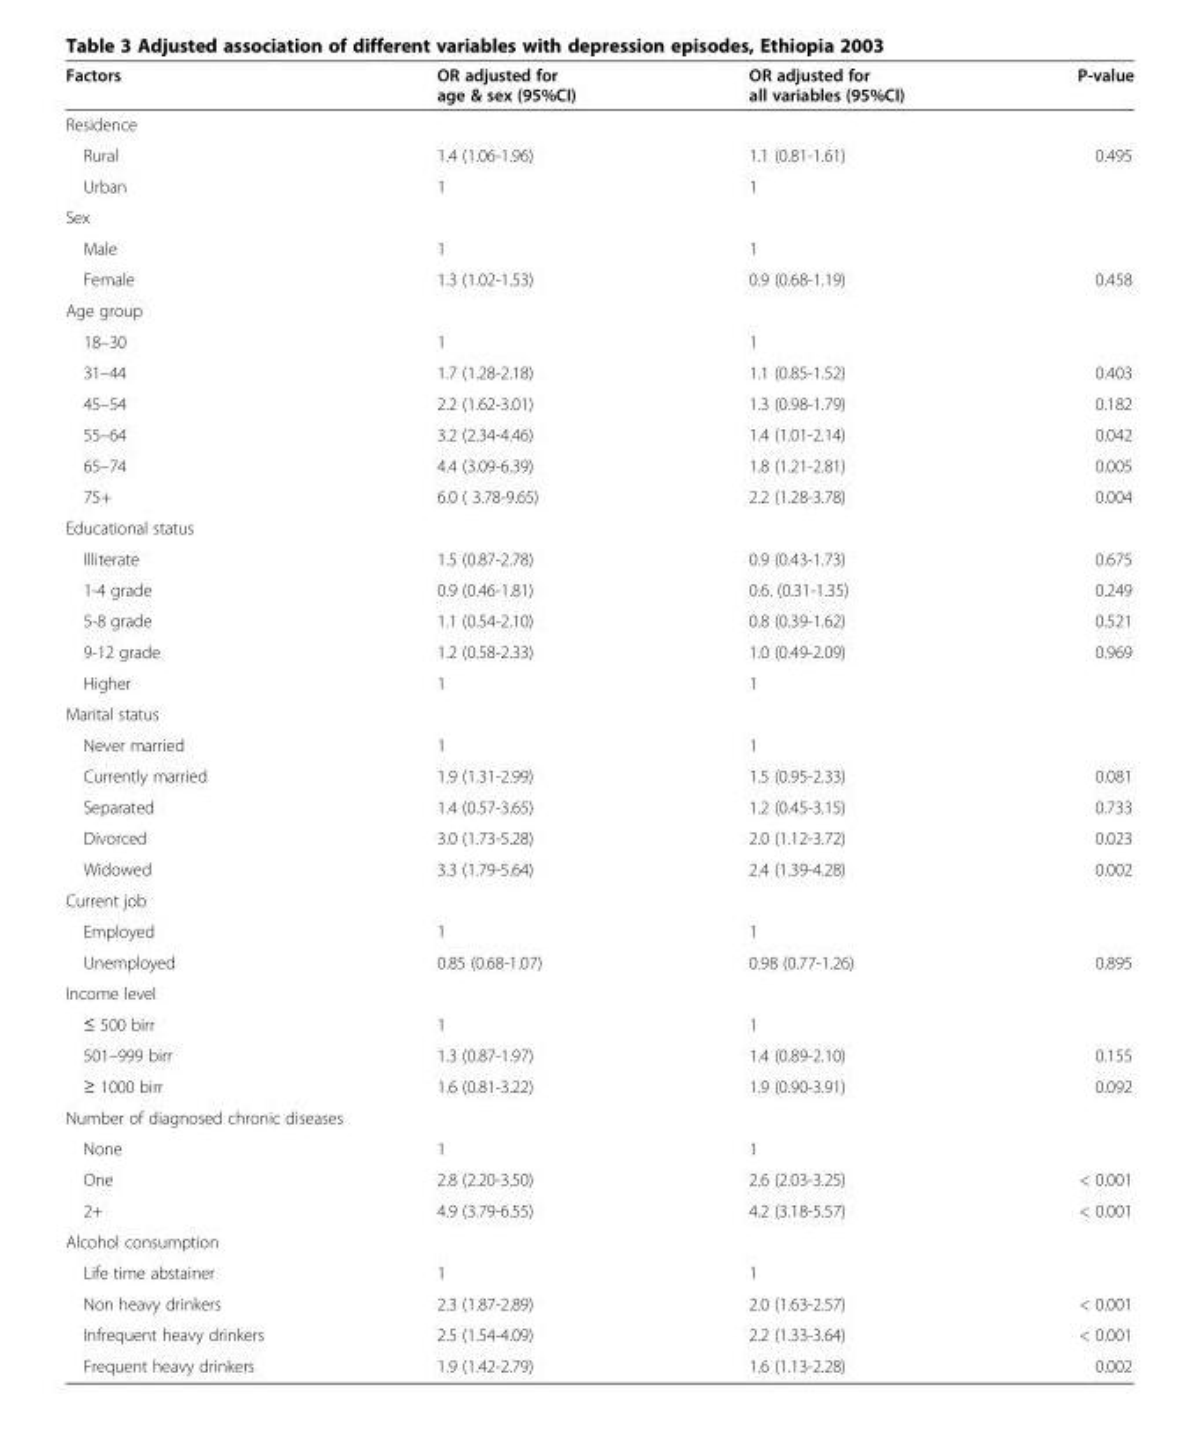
<table><thead><tr><td>Factors</td><td>OR adjusted for age &amp; sex (95%CI)</td><td>OR adjusted for all variables (95%CI)</td><td>P-value</td></tr></thead><tbody><tr><td colspan="4">Residence</td></tr><tr><td>Rural</td><td>1.4 (1.06-1.96)</td><td>1.1 (0.81-1.61)</td><td>0.495</td></tr><tr><td>Urban</td><td>1</td><td>1</td><td></td></tr><tr><td colspan="4">Sex</td></tr><tr><td>Male</td><td>1</td><td>1</td><td></td></tr><tr><td>Female</td><td>1.3 (1.02-1.53)</td><td>0.9 (0.68-1.19)</td><td>0.458</td></tr><tr><td colspan="4">Age group</td></tr><tr><td>18–30</td><td>1</td><td>1</td><td></td></tr><tr><td>31–44</td><td>1.7 (1.28-2.18)</td><td>1.1 (0.85-1.52)</td><td>0.403</td></tr><tr><td>45–54</td><td>2.2 (1.62-3.01)</td><td>1.3 (0.98-1.79)</td><td>0.182</td></tr><tr><td>55–64</td><td>3.2 (2.34-4.46)</td><td>1.4 (1.01-2.14)</td><td>0.042</td></tr><tr><td>65–74</td><td>4.4 (3.09-6.39)</td><td>1.8 (1.21-2.81)</td><td>0.005</td></tr><tr><td>75+</td><td>6.0 ( 3.78-9.65)</td><td>2.2 (1.28-3.78)</td><td>0.004</td></tr><tr><td colspan="4">Educational status</td></tr><tr><td>Illiterate</td><td>1.5 (0.87-2.78)</td><td>0.9 (0.43-1.73)</td><td>0.675</td></tr><tr><td>1-4 grade</td><td>0.9 (0.46-1.81)</td><td>0.6. (0.31-1.35)</td><td>0.249</td></tr><tr><td>5-8 grade</td><td>1.1 (0.54-2.10)</td><td>0.8 (0.39-1.62)</td><td>0.521</td></tr><tr><td>9-12 grade</td><td>1.2 (0.58-2.33)</td><td>1.0 (0.49-2.09)</td><td>0.969</td></tr><tr><td>Higher</td><td>1</td><td>1</td><td></td></tr><tr><td colspan="4">Marital status</td></tr><tr><td>Never married</td><td>1</td><td>1</td><td></td></tr><tr><td>Currently married</td><td>1.9 (1.31-2.99)</td><td>1.5 (0.95-2.33)</td><td>0.081</td></tr><tr><td>Separated</td><td>1.4 (0.57-3.65)</td><td>1.2 (0.45-3.15)</td><td>0.733</td></tr><tr><td>Divorced</td><td>3.0 (1.73-5.28)</td><td>2.0 (1.12-3.72)</td><td>0.023</td></tr><tr><td>Widowed</td><td>3.3 (1.79-5.64)</td><td>2.4 (1.39-4.28)</td><td>0.002</td></tr><tr><td colspan="4">Current job</td></tr><tr><td>Employed</td><td>1</td><td>1</td><td></td></tr><tr><td>Unemployed</td><td>0.85 (0.68-1.07)</td><td>0.98 (0.77-1.26)</td><td>0.895</td></tr><tr><td colspan="4">Income level</td></tr><tr><td>≤ 500 birr</td><td>1</td><td>1</td><td></td></tr><tr><td>501–999 birr</td><td>1.3 (0.87-1.97)</td><td>1.4 (0.89-2.10)</td><td>0.155</td></tr><tr><td>≥ 1000 birr</td><td>1.6 (0.81-3.22)</td><td>1.9 (0.90-3.91)</td><td>0.092</td></tr><tr><td colspan="4">Number of diagnosed chronic diseases</td></tr><tr><td>None</td><td>1</td><td>1</td><td></td></tr><tr><td>One</td><td>2.8 (2.20-3.50)</td><td>2.6 (2.03-3.25)</td><td>&lt; 0.001</td></tr><tr><td>2+</td><td>4.9 (3.79-6.55)</td><td>4.2 (3.18-5.57)</td><td>&lt; 0.001</td></tr><tr><td colspan="4">Alcohol consumption</td></tr><tr><td>Life time abstainer</td><td>1</td><td>1</td><td></td></tr><tr><td>Non heavy drinkers</td><td>2.3 (1.87-2.89)</td><td>2.0 (1.63-2.57)</td><td>&lt; 0.001</td></tr><tr><td>Infrequent heavy drinkers</td><td>2.5 (1.54-4.09)</td><td>2.2 (1.33-3.64)</td><td>&lt; 0.001</td></tr><tr><td>Frequent heavy drinkers</td><td>1.9 (1.42-2.79)</td><td>1.6 (1.13-2.28)</td><td>0.002</td></tr></tbody></table>